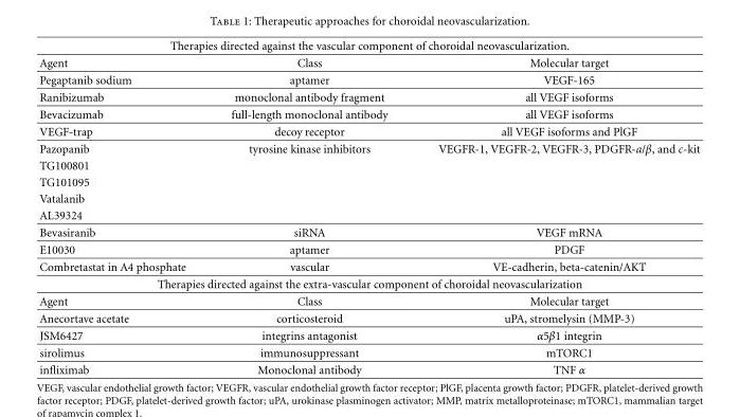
<table><thead><tr><td colspan="3">Therapies directed against the vascular component of choroidal neovascularization.</td></tr><tr><td>Agent</td><td>Class</td><td>Molecular target</td></tr></thead><tbody><tr><td>Pegaptanib sodium</td><td>aptamer</td><td>VEGF-165</td></tr><tr><td>Ranibizumab</td><td>monoclonal antibody fragment</td><td>all VEGF isoforms</td></tr><tr><td>Bevacizumab</td><td>full-length monoclonal antibody</td><td>all VEGF isoforms</td></tr><tr><td>VEGF-trap</td><td>decoy receptor</td><td>all VEGF isoforms and PlGF</td></tr><tr><td>Pazopanib</td><td>tyrosine kinase inhibitors</td><td>VEGFR-1, VEGFR-2, VEGFR-3, PDGFR-a/β, and c-kit</td></tr><tr><td colspan="3">TG100801</td></tr><tr><td colspan="3">TG101095</td></tr><tr><td colspan="3">Vatalanib</td></tr><tr><td colspan="3">AL39324</td></tr><tr><td>Bevasiranib</td><td>siRNA</td><td>VEGF mRNA</td></tr><tr><td>E10030</td><td>aptamer</td><td>PDGF</td></tr><tr><td>Combretastat in A4 phosphate</td><td>vascular</td><td>VE-cadherin, beta-catenin/AKT</td></tr><tr><td colspan="3">Therapies directed against the extra-vascular component of choroidal neovascularization</td></tr><tr><td>Agent</td><td>Class</td><td>Molecular target</td></tr><tr><td>Anecortave acetate</td><td>corticosteroid</td><td>uPA, stromelysin (MMP-3)</td></tr><tr><td>JSM6427</td><td>integrins antagonist</td><td>α5β1 integrin</td></tr><tr><td>sirolimus</td><td>immunosuppressant</td><td>mTORC1</td></tr><tr><td>infliximab</td><td>Monoclonal antibody</td><td>TNF α</td></tr></tbody></table>